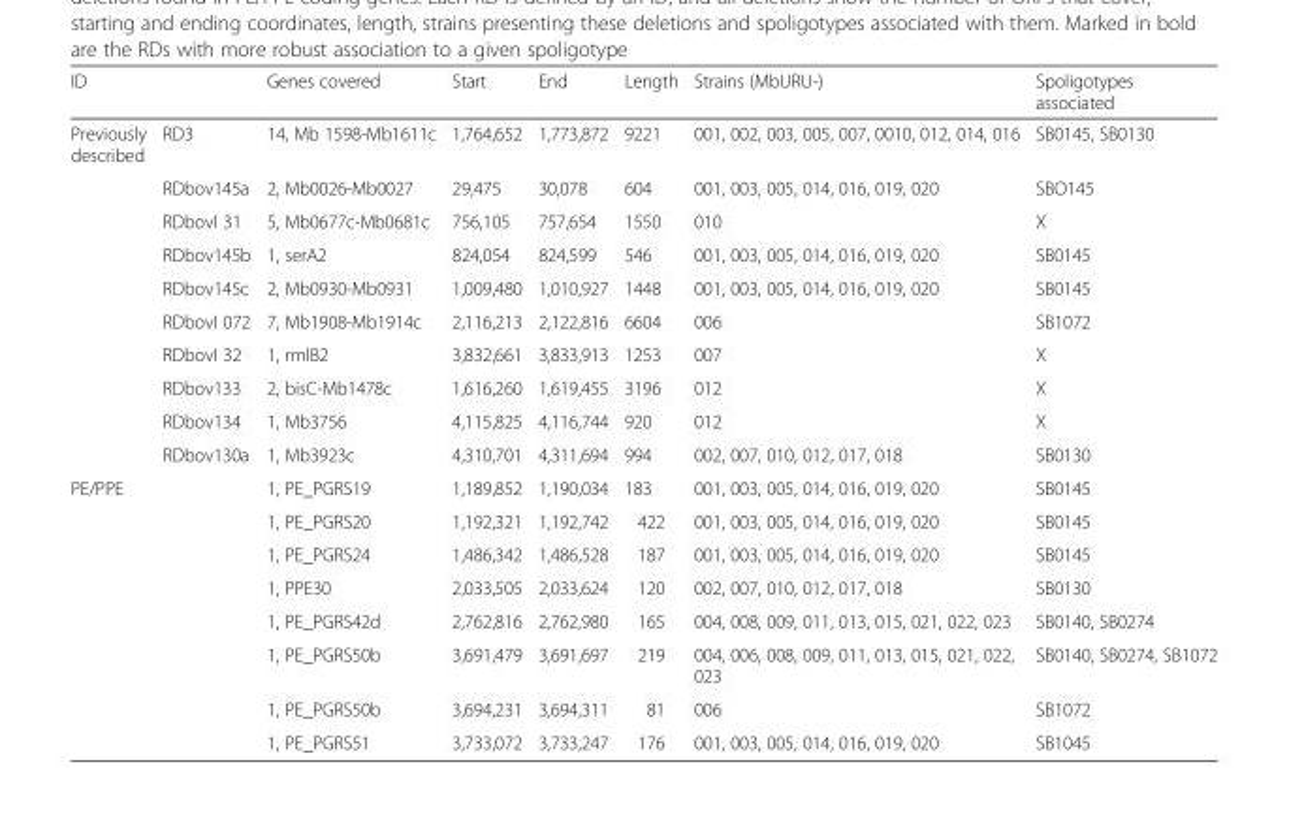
<table><thead><tr><td colspan="2">ID</td><td rowspan="2">Genes covered 14, Mb 1598-Mb1611c</td><td rowspan="2">Start 1,764,652</td><td rowspan="2">End 1,773,872</td><td rowspan="2">Length 9221</td><td rowspan="2">Strains (MbURU-) 001, 002, 003, 005, 007, 0010, 012, 014, 016</td><td rowspan="2">Spoligotypes associated SB0145, SB0130</td></tr><tr><td>Previously described</td><td>RD3</td></tr></thead><tbody><tr><td></td><td>RDbov145a</td><td>2, Mb0026-Mb0027</td><td>29,475</td><td>30,078</td><td>604</td><td>001, 003, 005, 014, 016, 019, 020</td><td>SBO145</td></tr><tr><td></td><td>RDbovI 31</td><td>5, Mb0677c-Mb0681c</td><td>756,105</td><td>757,654</td><td>1550</td><td>010</td><td>X</td></tr><tr><td></td><td>RDbov145b</td><td>1, serA2</td><td>824,054</td><td>824,599</td><td>546</td><td>001, 003, 005, 014, 016, 019, 020</td><td>SB0145</td></tr><tr><td></td><td>RDbov145c</td><td>2, Mb0930-Mb0931</td><td>1,009,480</td><td>1,010,927</td><td>1448</td><td>001, 003, 005, 014, 016, 019, 020</td><td>SB0145</td></tr><tr><td></td><td>RDbovI 072</td><td>7, Mb1908-Mb1914c</td><td>2,116,213</td><td>2,122,816</td><td>6604</td><td>006</td><td>SB1072</td></tr><tr><td></td><td>RDbovI 32</td><td>1, rmlB2</td><td>3,832,661</td><td>3,833,913</td><td>1253</td><td>007</td><td>X</td></tr><tr><td></td><td>RDbov133</td><td>2, bisC-Mb1478c</td><td>1,616,260</td><td>1,619,455</td><td>3196</td><td>012</td><td>X</td></tr><tr><td></td><td>RDbov134</td><td>1, Mb3756</td><td>4,115,825</td><td>4,116,744</td><td>920</td><td>012</td><td>X</td></tr><tr><td></td><td>RDbov130a</td><td>1, Mb3923c</td><td>4,310,701</td><td>4,311,694</td><td>994</td><td>002, 007, 010, 012, 017, 018</td><td>SB0130</td></tr><tr><td rowspan="8" colspan="2">PE/PPE</td><td>1, PE_PGRS19</td><td>1,189,852</td><td>1,190,034</td><td>183</td><td>001, 003, 005, 014, 016, 019, 020</td><td>SB0145</td></tr><tr><td>1, PE_PGRS20</td><td>1,192,321</td><td>1,192,742</td><td>422</td><td>001, 003, 005, 014, 016, 019, 020</td><td>SB0145</td></tr><tr><td>1, PE_PGRS24</td><td>1,486,342</td><td>1,486,528</td><td>187</td><td>001, 003, 005, 014, 016, 019, 020</td><td>SB0145</td></tr><tr><td>1, PPE30</td><td>2,033,505</td><td>2,033,624</td><td>120</td><td>002, 007, 010, 012, 017, 018</td><td>SB0130</td></tr><tr><td>1, PE_PGRS42d</td><td>2,762,816</td><td>2,762,980</td><td>165</td><td>004, 008, 009, 011, 013, 015, 021, 022, 023</td><td>SB0140, SB0274</td></tr><tr><td>1, PE_PGRS50b</td><td>3,691,479</td><td>3,691,697</td><td>219</td><td>004, 006, 008, 009, 011, 013, 015, 021, 022, 023</td><td>SB0140, SB0274, SB1072</td></tr><tr><td>1, PE_PGRS50b</td><td>3,694,231</td><td>3,694,311</td><td>81</td><td>006</td><td>SB1072</td></tr><tr><td>1, PE_PGRS51</td><td>3,733,072</td><td>3,733,247</td><td>176</td><td>001, 003, 005, 014, 016, 019, 020</td><td>SB1045</td></tr></tbody></table>